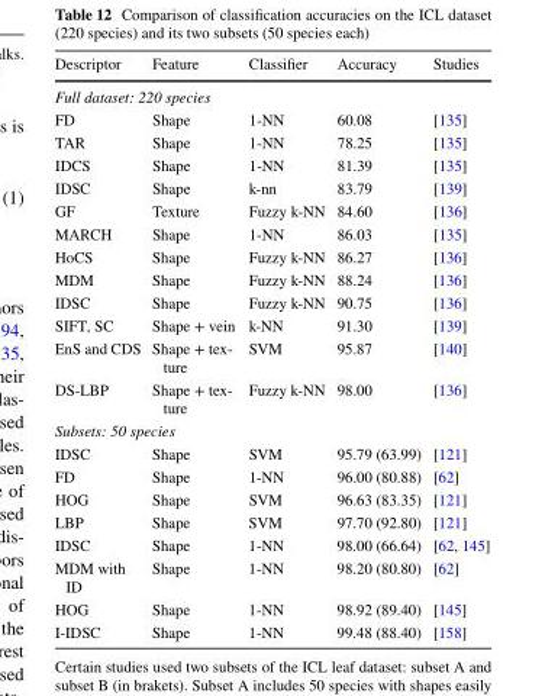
<table><thead><tr><td>Descriptor</td><td>Feature</td><td>Classifier</td><td>Accuracy</td><td>Studies</td></tr></thead><tbody><tr><td colspan="5">Full dataset: 220 species</td></tr><tr><td>FD</td><td>Shape</td><td>1-NN</td><td>60.08</td><td>[135]</td></tr><tr><td>TAR</td><td>Shape</td><td>1-NN</td><td>78.25</td><td>[135]</td></tr><tr><td>IDCS</td><td>Shape</td><td>1-NN</td><td>81.39</td><td>[135]</td></tr><tr><td>IDSC</td><td>Shape</td><td>k-nn</td><td>83.79</td><td>[139]</td></tr><tr><td>GF</td><td>Texture</td><td>Fuzzy k-NN</td><td>84.60</td><td>[136]</td></tr><tr><td>MARCH</td><td>Shape</td><td>1-NN</td><td>86.03</td><td>[135]</td></tr><tr><td>HoCS</td><td>Shape</td><td>Fuzzy k-NN</td><td>86.27</td><td>[136]</td></tr><tr><td>MDM</td><td>Shape</td><td>Fuzzy k-NN</td><td>88.24</td><td>[136]</td></tr><tr><td>IDSC</td><td>Shape</td><td>Fuzzy k-NN</td><td>90.75</td><td>[136]</td></tr><tr><td>SIFT, SC</td><td>Shape + vein</td><td>k-NN</td><td>91.30</td><td>[139]</td></tr><tr><td>EnS and CDS</td><td>Shape + tex- ture</td><td>SVM</td><td>95.87</td><td>[140]</td></tr><tr><td>DS-LBP</td><td>Shape + tex- ture</td><td>Fuzzy k-NN</td><td>98.00</td><td>[136]</td></tr><tr><td colspan="5">Subsets: 50 species</td></tr><tr><td>IDSC</td><td>Shape</td><td>SVM</td><td>95.79 (63.99)</td><td>[121]</td></tr><tr><td>FD</td><td>Shape</td><td>1-NN</td><td>96.00 (80.88)</td><td>[62]</td></tr><tr><td>HOG</td><td>Shape</td><td>SVM</td><td>96.63 (83.35)</td><td>[121]</td></tr><tr><td>LBP</td><td>Shape</td><td>SVM</td><td>97.70 (92.80)</td><td>[121]</td></tr><tr><td>IDSC</td><td>Shape</td><td>1-NN</td><td>98.00 (66.64)</td><td>[62, 145]</td></tr><tr><td>MDM with ID</td><td>Shape</td><td>1-NN</td><td>98.20 (80.80)</td><td>[62]</td></tr><tr><td>HOG</td><td>Shape</td><td>1-NN</td><td>98.92 (89.40)</td><td>[145]</td></tr><tr><td>I-IDSC</td><td>Shape</td><td>1-NN</td><td>99.48 (88.40)</td><td>[158]</td></tr></tbody></table>